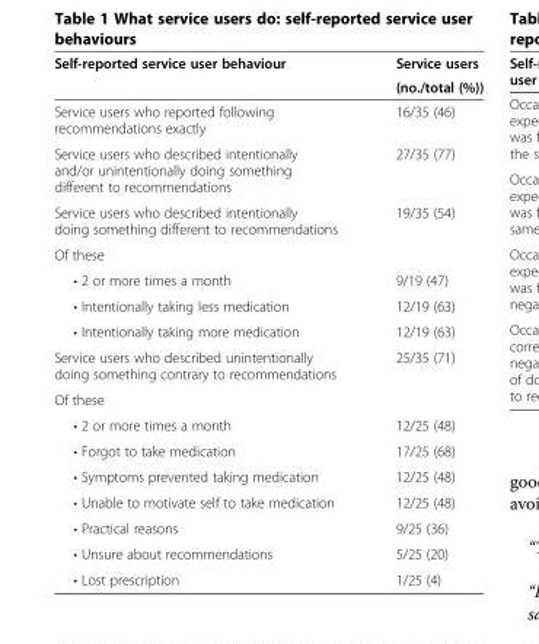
<table><thead><tr><td rowspan="2">Self-reported service user behaviour</td><td rowspan="2">Service users (no./total (%))</td></tr><tr></tr></thead><tbody><tr><td>Service users who reported following recommendations exactly</td><td>16/35 (46)</td></tr><tr><td>Service users who described intentionally and/or unintentionally doing something different to recommendations</td><td>27/35 (77)</td></tr><tr><td>Service users who described intentionally doing something different to recommendations</td><td>19/35 (54)</td></tr><tr><td colspan="2">Of these</td></tr><tr><td>• 2 or more times a month</td><td>9/19 (47)</td></tr><tr><td>• Intentionally taking less medication</td><td>12/19 (63)</td></tr><tr><td>• Intentionally taking more medication</td><td>12/19 (63)</td></tr><tr><td>Service users who described unintentionally doing something contrary to recommendations</td><td>25/35 (71)</td></tr><tr><td colspan="2">Of these</td></tr><tr><td>• 2 or more times a month</td><td>12/25 (48)</td></tr><tr><td>• Forgot to take medication</td><td>17/25 (68)</td></tr><tr><td>• Symptoms prevented taking medication</td><td>12/25 (48)</td></tr><tr><td>• Unable to motivate self to take medication</td><td>12/25 (48)</td></tr><tr><td>• Practical reasons</td><td>9/25 (36)</td></tr><tr><td>• Unsure about recommendations</td><td>5/25 (20)</td></tr><tr><td>• Lost prescription</td><td>1/25 (4)</td></tr></tbody></table>